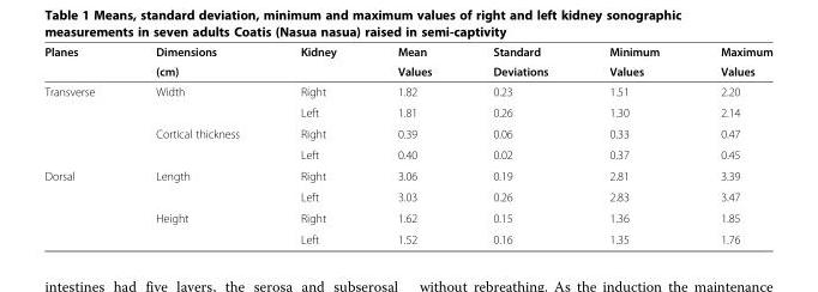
<table><thead><tr><td rowspan="2">Planes</td><td rowspan="2">Dimensions (cm)</td><td rowspan="2">Kidney</td><td rowspan="2">Mean Values</td><td rowspan="2">Standard Deviations</td><td rowspan="2">Minimum Values</td><td rowspan="2">Maximum Values</td></tr><tr></tr></thead><tbody><tr><td rowspan="4">Transverse</td><td rowspan="2">Width</td><td>Right</td><td>1.82</td><td>0.23</td><td>1.51</td><td>2.20</td></tr><tr><td>Left</td><td>1.81</td><td>0.26</td><td>1.30</td><td>2.14</td></tr><tr><td rowspan="2">Cortical thickness</td><td>Right</td><td>0.39</td><td>0.06</td><td>0.33</td><td>0.47</td></tr><tr><td>Left</td><td>0.40</td><td>0.02</td><td>0.37</td><td>0.45</td></tr><tr><td rowspan="4">Dorsal</td><td rowspan="2">Length</td><td>Right</td><td>3.06</td><td>0.19</td><td>2.81</td><td>3.39</td></tr><tr><td>Left</td><td>3.03</td><td>0.26</td><td>2.83</td><td>3.47</td></tr><tr><td rowspan="2">Height</td><td>Right</td><td>1.62</td><td>0.15</td><td>1.36</td><td>1.85</td></tr><tr><td>Left</td><td>1.52</td><td>0.16</td><td>1.35</td><td>1.76</td></tr></tbody></table>